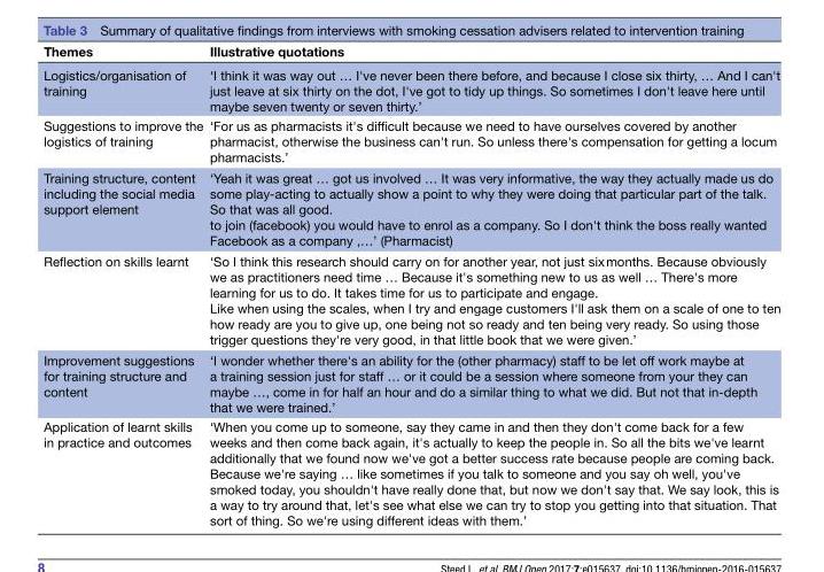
<table><thead><tr><td>Themes</td><td>Illustrative quotations</td></tr></thead><tbody><tr><td>Logistics/organisation of training</td><td>‘I think it was way out … I&#x27;ve never been there before, and because I close six thirty, … And I can&#x27;t just leave at six thirty on the dot, I&#x27;ve got to tidy up things. So sometimes I don&#x27;t leave here until maybe seven twenty or seven thirty.’</td></tr><tr><td>Suggestions to improve the logistics of training</td><td>‘For us as pharmacists it&#x27;s difficult because we need to have ourselves covered by another pharmacist, otherwise the business can&#x27;t run. So unless there&#x27;s compensation for getting a locum pharmacists.’</td></tr><tr><td>Training structure, content including the social media support element</td><td>‘Yeah it was great … got us involved … It was very informative, the way they actually made us do some play-acting to actually show a point to why they were doing that particular part of the talk. So that was all good. to join (facebook) you would have to enrol as a company. So I don&#x27;t think the boss really wanted Facebook as a company ,…’ (Pharmacist)</td></tr><tr><td>Reflection on skills learnt</td><td>‘So I think this research should carry on for another year, not just six months. Because obviously we as practitioners need time … Because it&#x27;s something new to us as well … There&#x27;s more learning for us to do. It takes time for us to participate and engage. Like when using the scales, when I try and engage customers I&#x27;ll ask them on a scale of one to ten how ready are you to give up, one being not so ready and ten being very ready. So using those trigger questions they&#x27;re very good, in that little book that we were given.’</td></tr><tr><td>Improvement suggestions for training structure and content</td><td>‘I wonder whether there&#x27;s an ability for the (other pharmacy) staff to be let off work maybe at a training session just for staff … or it could be a session where someone from your they can maybe …, come in for half an hour and do a similar thing to what we did. But not that in-depth that we were trained.’</td></tr><tr><td>Application of learnt skills in practice and outcomes</td><td>‘When you come up to someone, say they came in and then they don&#x27;t come back for a few weeks and then come back again, it&#x27;s actually to keep the people in. So all the bits we&#x27;ve learnt additionally that we found now we&#x27;ve got a better success rate because people are coming back. Because we&#x27;re saying … like sometimes if you talk to someone and you say oh well, you&#x27;ve smoked today, you shouldn&#x27;t have really done that, but now we don&#x27;t say that. We say look, this is a way to try around that, let&#x27;s see what else we can try to stop you getting into that situation. That sort of thing. So we&#x27;re using different ideas with them.’</td></tr></tbody></table>